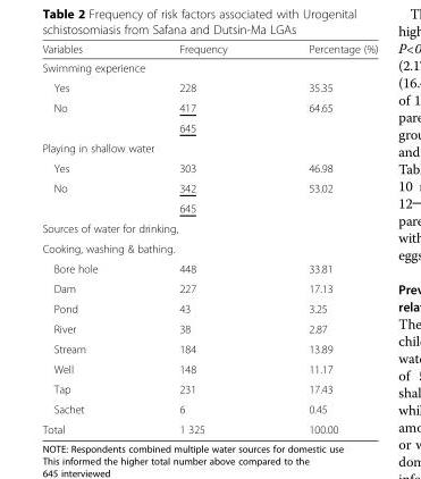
<table><thead><tr><td>Variables</td><td>Frequency</td><td>Percentage (%)</td></tr></thead><tbody><tr><td colspan="3">Swimming experience</td></tr><tr><td>Yes</td><td>228</td><td>35.35</td></tr><tr><td rowspan="2">No</td><td>417</td><td>64.65</td></tr><tr><td>645</td><td></td></tr><tr><td colspan="3">Playing in shallow water</td></tr><tr><td>Yes</td><td>303</td><td>46.98</td></tr><tr><td rowspan="2">No</td><td>342</td><td>53.02</td></tr><tr><td>645</td><td></td></tr><tr><td colspan="3">Sources of water for drinking,</td></tr><tr><td colspan="3">Cooking, washing &amp; bathing.</td></tr><tr><td>Bore hole</td><td>448</td><td>33.81</td></tr><tr><td>Dam</td><td>227</td><td>17.13</td></tr><tr><td>Pond</td><td>43</td><td>3.25</td></tr><tr><td>River</td><td>38</td><td>2.87</td></tr><tr><td>Stream</td><td>184</td><td>13.89</td></tr><tr><td>Well</td><td>148</td><td>11.17</td></tr><tr><td>Tap</td><td>231</td><td>17.43</td></tr><tr><td>Sachet</td><td>6</td><td>0.45</td></tr><tr><td>Total</td><td>1 325</td><td>100.00</td></tr></tbody></table>